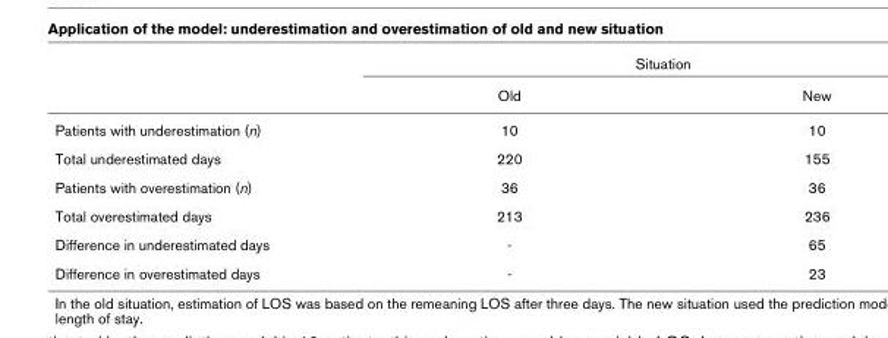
<table><thead><tr><td rowspan="2"></td><td colspan="2">Situation</td></tr><tr><td>Old</td><td>New</td></tr></thead><tbody><tr><td>Patients with underestimation (n)</td><td>10</td><td>10</td></tr><tr><td>Total underestimated days</td><td>220</td><td>155</td></tr><tr><td>Patients with overestimation (n)</td><td>36</td><td>36</td></tr><tr><td>Total overestimated days</td><td>213</td><td>236</td></tr><tr><td>Difference in underestimated days</td><td>-</td><td>65</td></tr><tr><td>Difference in overestimated days</td><td>-</td><td>23</td></tr></tbody></table>